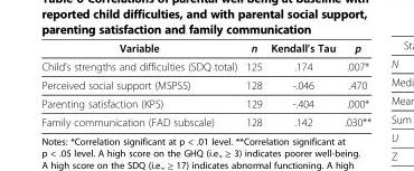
<table><thead><tr><td>Variable</td><td>n</td><td>Kendall’s Tau</td><td>p</td></tr></thead><tbody><tr><td>Child’s strengths and difficulties (SDQ total)</td><td>125</td><td>.174</td><td>.007*</td></tr><tr><td>Perceived social support (MSPSS)</td><td>128</td><td>-.046</td><td>.470</td></tr><tr><td>Parenting satisfaction (KPS)</td><td>129</td><td>-.404</td><td>.000*</td></tr><tr><td>Family communication (FAD subscale)</td><td>128</td><td>.142</td><td>.030**</td></tr></tbody></table>